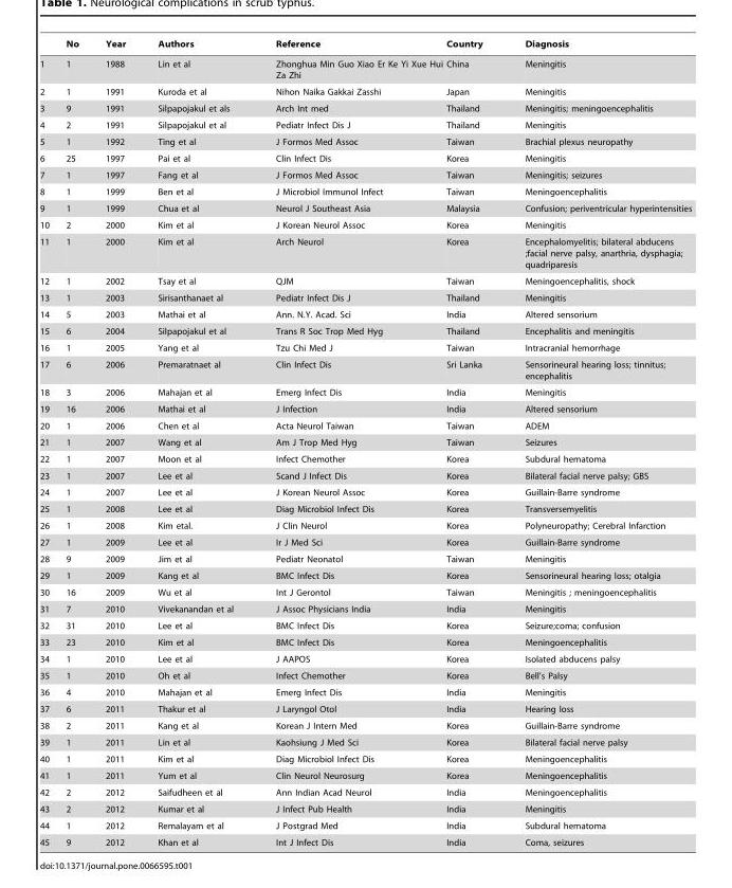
<table><thead><tr><td></td><td>No</td><td>Year</td><td>Authors</td><td>Reference</td><td>Country</td><td>Diagnosis</td></tr></thead><tbody><tr><td>1</td><td>1</td><td>1988</td><td>Lin et al</td><td>Zhonghua Min Guo Xiao Er Ke Yi Xue Hui Za Zhi</td><td>China</td><td>Meningitis</td></tr><tr><td>2</td><td>1</td><td>1991</td><td>Kuroda et al</td><td>Nihon Naika Gakkai Zasshi</td><td>Japan</td><td>Meningitis</td></tr><tr><td>3</td><td>9</td><td>1991</td><td>Silpapojakul et als</td><td>Arch Int med</td><td>Thailand</td><td>Meningitis; meningoencephalitis</td></tr><tr><td>4</td><td>2</td><td>1991</td><td>Silpapojakul et al</td><td>Pediatr Infect Dis J</td><td>Thailand</td><td>Meningitis</td></tr><tr><td>5</td><td>1</td><td>1992</td><td>Ting et al</td><td>J Formos Med Assoc</td><td>Taiwan</td><td>Brachial plexus neuropathy</td></tr><tr><td>6</td><td>25</td><td>1997</td><td>Pai et al</td><td>Clin Infect Dis</td><td>Korea</td><td>Meningitis</td></tr><tr><td>7</td><td>1</td><td>1997</td><td>Fang et al</td><td>J Formos Med Assoc</td><td>Taiwan</td><td>Meningitis; seizures</td></tr><tr><td>8</td><td>1</td><td>1999</td><td>Ben et al</td><td>J Microbiol Immunol Infect</td><td>Taiwan</td><td>Meningoencephalitis</td></tr><tr><td>9</td><td>1</td><td>1999</td><td>Chua et al</td><td>Neurol J Southeast Asia</td><td>Malaysia</td><td>Confusion; periventricular hyperintensities</td></tr><tr><td>10</td><td>2</td><td>2000</td><td>Kim et al</td><td>J Korean Neurol Assoc</td><td>Korea</td><td>Meningitis</td></tr><tr><td>11</td><td>1</td><td>2000</td><td>Kim et al</td><td>Arch Neurol</td><td>Korea</td><td>Encephalomyelitis; bilateral abducens ;facial nerve palsy, anarthria, dysphagia; quadriparesis</td></tr><tr><td>12</td><td>1</td><td>2002</td><td>Tsay et al</td><td>QJM</td><td>Taiwan</td><td>Meningoencephalitis, shock</td></tr><tr><td>13</td><td>1</td><td>2003</td><td>Sirisanthanaet al</td><td>Pediatr Infect Dis J</td><td>Thailand</td><td>Meningitis</td></tr><tr><td>14</td><td>5</td><td>2003</td><td>Mathai et al</td><td>Ann. N.Y. Acad. Sci</td><td>India</td><td>Altered sensorium</td></tr><tr><td>15</td><td>6</td><td>2004</td><td>Silpapojakul et al</td><td>Trans R Soc Trop Med Hyg</td><td>Thailand</td><td>Encephalitis and meningitis</td></tr><tr><td>16</td><td>1</td><td>2005</td><td>Yang et al</td><td>Tzu Chi Med J</td><td>Taiwan</td><td>Intracranial hemorrhage</td></tr><tr><td>17</td><td>6</td><td>2006</td><td>Premaratnaet al</td><td>Clin Infect Dis</td><td>Sri Lanka</td><td>Sensorineural hearing loss; tinnitus; encephalitis</td></tr><tr><td>18</td><td>3</td><td>2006</td><td>Mahajan et al</td><td>Emerg Infect Dis</td><td>India</td><td>Meningitis</td></tr><tr><td>19</td><td>16</td><td>2006</td><td>Mathai et al</td><td>J Infection</td><td>India</td><td>Altered sensorium</td></tr><tr><td>20</td><td>1</td><td>2006</td><td>Chen et al</td><td>Acta Neurol Taiwan</td><td>Taiwan</td><td>ADEM</td></tr><tr><td>21</td><td>1</td><td>2007</td><td>Wang et al</td><td>Am J Trop Med Hyg</td><td>Taiwan</td><td>Seizures</td></tr><tr><td>22</td><td>1</td><td>2007</td><td>Moon et al</td><td>Infect Chemother</td><td>Korea</td><td>Subdural hematoma</td></tr><tr><td>23</td><td>1</td><td>2007</td><td>Lee et al</td><td>Scand J Infect Dis</td><td>Korea</td><td>Bilateral facial nerve palsy; GBS</td></tr><tr><td>24</td><td>1</td><td>2007</td><td>Lee et al</td><td>J Korean Neurol Assoc</td><td>Korea</td><td>Guillain-Barre syndrome</td></tr><tr><td>25</td><td>1</td><td>2008</td><td>Lee et al</td><td>Diag Microbiol Infect Dis</td><td>Korea</td><td>Transversemyelitis</td></tr><tr><td>26</td><td>1</td><td>2008</td><td>Kim etal.</td><td>J Clin Neurol</td><td>Korea</td><td>Polyneuropathy; Cerebral Infarction</td></tr><tr><td>27</td><td>1</td><td>2009</td><td>Lee et al</td><td>Ir J Med Sci</td><td>Korea</td><td>Guillain-Barre syndrome</td></tr><tr><td>28</td><td>9</td><td>2009</td><td>Jim et al</td><td>Pediatr Neonatol</td><td>Taiwan</td><td>Meningitis</td></tr><tr><td>29</td><td>1</td><td>2009</td><td>Kang et al</td><td>BMC Infect Dis</td><td>Korea</td><td>Sensorineural hearing loss; otalgia</td></tr><tr><td>30</td><td>16</td><td>2009</td><td>Wu et al</td><td>Int J Gerontol</td><td>Taiwan</td><td>Meningitis ; meningoencephalitis</td></tr><tr><td>31</td><td>7</td><td>2010</td><td>Vivekanandan et al</td><td>J Assoc Physicians India</td><td>India</td><td>Meningitis</td></tr><tr><td>32</td><td>31</td><td>2010</td><td>Lee et al</td><td>BMC Infect Dis</td><td>Korea</td><td>Seizure;coma; confusion</td></tr><tr><td>33</td><td>23</td><td>2010</td><td>Kim et al</td><td>BMC Infect Dis</td><td>Korea</td><td>Meningoencephalitis</td></tr><tr><td>34</td><td>1</td><td>2010</td><td>Lee et al</td><td>J AAPOS</td><td>Korea</td><td>Isolated abducens palsy</td></tr><tr><td>35</td><td>1</td><td>2010</td><td>Oh et al</td><td>Infect Chemother</td><td>Korea</td><td>Bell’s Palsy</td></tr><tr><td>36</td><td>4</td><td>2010</td><td>Mahajan et al</td><td>Emerg Infect Dis</td><td>India</td><td>Meningitis</td></tr><tr><td>37</td><td>6</td><td>2011</td><td>Thakur et al</td><td>J Laryngol Otol</td><td>India</td><td>Hearing loss</td></tr><tr><td>38</td><td>2</td><td>2011</td><td>Kang et al</td><td>Korean J Intern Med</td><td>Korea</td><td>Guillain-Barre syndrome</td></tr><tr><td>39</td><td>1</td><td>2011</td><td>Lin et al</td><td>Kaohsiung J Med Sci</td><td>Korea</td><td>Bilateral facial nerve palsy</td></tr><tr><td>40</td><td>1</td><td>2011</td><td>Kim et al</td><td>Diag Microbiol Infect Dis</td><td>Korea</td><td>Meningoencephalitis</td></tr><tr><td>41</td><td>1</td><td>2011</td><td>Yum et al</td><td>Clin Neurol Neurosurg</td><td>Korea</td><td>Meningoencephalitis</td></tr><tr><td>42</td><td>2</td><td>2012</td><td>Saifudheen et al</td><td>Ann Indian Acad Neurol</td><td>India</td><td>Meningoencephalitis</td></tr><tr><td>43</td><td>2</td><td>2012</td><td>Kumar et al</td><td>J Infect Pub Health</td><td>India</td><td>Meningitis</td></tr><tr><td>44</td><td>1</td><td>2012</td><td>Remalayam et al</td><td>J Postgrad Med</td><td>India</td><td>Subdural hematoma</td></tr><tr><td>45</td><td>9</td><td>2012</td><td>Khan et al</td><td>Int J Infect Dis</td><td>India</td><td>Coma, seizures</td></tr></tbody></table>